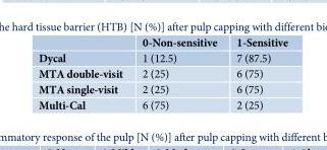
<table><thead><tr><td></td><td>0-Non-sensitive</td><td>1-Sensitive</td></tr></thead><tbody><tr><td>Dycal</td><td>1 (12.5)</td><td>7 (87.5)</td></tr><tr><td>MTA double-visit</td><td>2 (25)</td><td>6 (75)</td></tr><tr><td>MTA single-visit</td><td>2 (25)</td><td>6 (75)</td></tr><tr><td>Multi-Cal</td><td>6 (75)</td><td>2 (25)</td></tr></tbody></table>